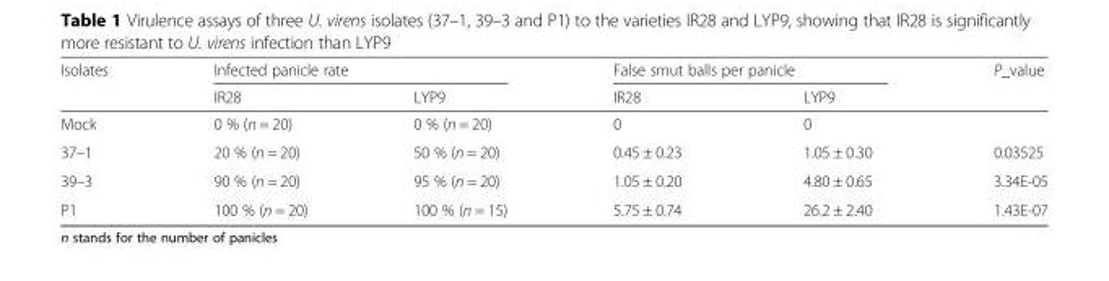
<table><thead><tr><td rowspan="2">Isolates</td><td colspan="2">Infected panicle rate</td><td colspan="2">False smut balls per panicle</td><td rowspan="2">P_value</td></tr><tr><td>IR28</td><td>LYP9</td><td>IR28</td><td>LYP9</td></tr></thead><tbody><tr><td>Mock</td><td>0 % (n = 20)</td><td>0 % (n = 20)</td><td>0</td><td>0</td><td></td></tr><tr><td>37–1</td><td>20 % (n = 20)</td><td>50 % (n = 20)</td><td>0.45 ± 0.23</td><td>1.05 ± 0.30</td><td>0.03525</td></tr><tr><td>39–3</td><td>90 % (n = 20)</td><td>95 % (n = 20)</td><td>1.05 ± 0.20</td><td>4.80 ± 0.65</td><td>3.34E-05</td></tr><tr><td>P1</td><td>100 % (n = 20)</td><td>100 % (n = 15)</td><td>5.75 ± 0.74</td><td>26.2 ± 2.40</td><td>1.43E-07</td></tr></tbody></table>